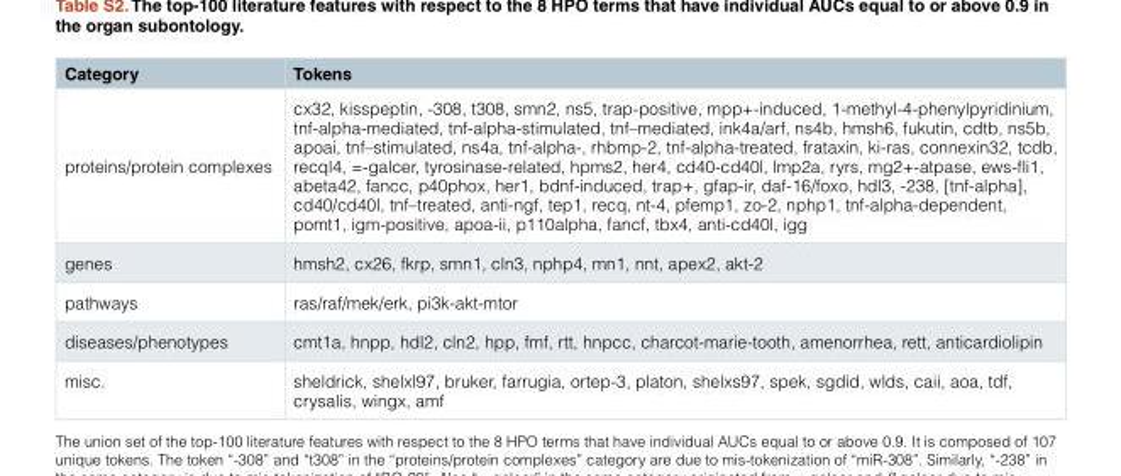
<table><thead><tr><td>Category</td><td>Tokens</td></tr></thead><tbody><tr><td>proteins/protein complexes</td><td>cx32, kisspeptin, -308, t308, smn2, ns5, trap-positive, mpp+-induced, 1-methyl-4-phenylpyridinium, tnf-alpha-mediated, tnf-alpha-stimulated, tnf–mediated, ink4a/arf, ns4b, hmsh6, fukutin, cdtb, ns5b, apoai, tnf–stimulated, ns4a, tnf-alpha-, rhbmp-2, tnf-alpha-treated, frataxin, ki-ras, connexin32, tcdb, recql4, =-galcer, tyrosinase-related, hpms2, her4, cd40-cd40l, lmp2a, ryrs, mg2+-atpase, ews-fli1, abeta42, fancc, p40phox, her1, bdnf-induced, trap+, gfap-ir, daf-16/foxo, hdl3, -238, [tnf-alpha], cd40/cd40l, tnf–treated, anti-ngf, tep1, recq, nt-4, pfemp1, zo-2, nphp1, tnf-alpha-dependent, pomt1, igm-positive, apoa-ii, p110alpha, fancf, tbx4, anti-cd40l, igg</td></tr><tr><td>genes</td><td>hmsh2, cx26, fkrp, smn1, cln3, nphp4, mn1, nnt, apex2, akt-2</td></tr><tr><td>pathways</td><td>ras/raf/mek/erk, pi3k-akt-mtor</td></tr><tr><td>diseases/phenotypes</td><td>cmt1a, hnpp, hdl2, cln2, hpp, fmf, rtt, hnpcc, charcot-marie-tooth, amenorrhea, rett, anticardiolipin</td></tr><tr><td>misc.</td><td>sheldrick, shelxl97, bruker, farrugia, ortep-3, platon, shelxs97, spek, sgdid, wlds, caii, aoa, tdf, crysalis, wingx, amf</td></tr></tbody></table>